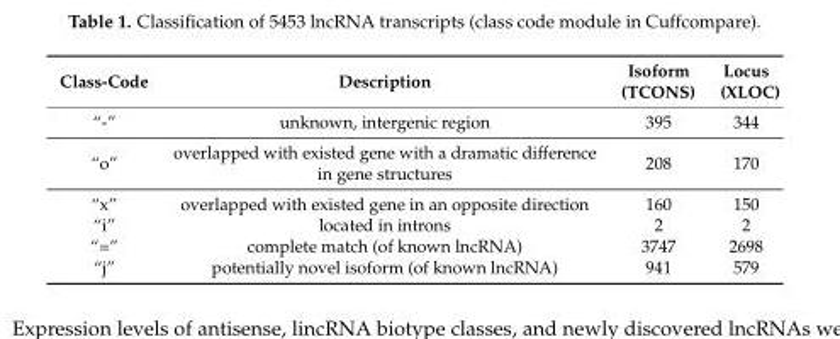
<table><thead><tr><td>Class-Code</td><td>Description</td><td>Isoform (TCONS)</td><td>Locus (XLOC)</td></tr></thead><tbody><tr><td>“-”</td><td>unknown, intergenic region</td><td>395</td><td>344</td></tr><tr><td>“o”</td><td>overlapped with existed gene with a dramatic difference in gene structures</td><td>208</td><td>170</td></tr><tr><td>“x”</td><td>overlapped with existed gene in an opposite direction</td><td>160</td><td>150</td></tr><tr><td>“i”</td><td>located in introns</td><td>2</td><td>2</td></tr><tr><td>“=”</td><td>complete match (of known lncRNA)</td><td>3747</td><td>2698</td></tr><tr><td>“j”</td><td>potentially novel isoform (of known lncRNA)</td><td>941</td><td>579</td></tr></tbody></table>